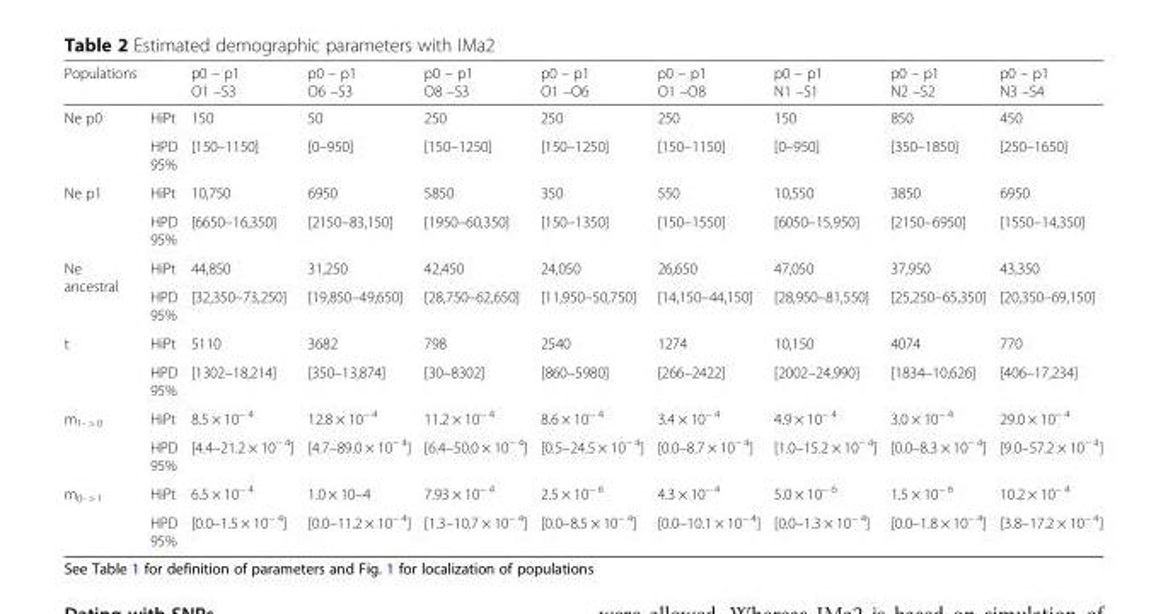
<table><thead><tr><td>Populations</td><td></td><td>p0 – p1 O1 –S3</td><td>p0 – p1 O6 –S3</td><td>p0 – p1 O8 –S3</td><td>p0 – p1 O1 –O6</td><td>p0 – p1 O1 –O8</td><td>p0 – p1 N1 –S1</td><td>p0 – p1 N2 –S2</td><td>p0 – p1 N3 –S4</td></tr></thead><tbody><tr><td rowspan="2">Ne p0</td><td>HiPt</td><td>150</td><td>50</td><td>250</td><td>250</td><td>250</td><td>150</td><td>850</td><td>450</td></tr><tr><td>HPD 95%</td><td>[150–1150]</td><td>[0–950]</td><td>[150–1250]</td><td>[150–1250]</td><td>[150–1150]</td><td>[0–950]</td><td>[350–1850]</td><td>[250–1650]</td></tr><tr><td rowspan="2">Ne p1</td><td>HiPt</td><td>10,750</td><td>6950</td><td>5850</td><td>350</td><td>550</td><td>10,550</td><td>3850</td><td>6950</td></tr><tr><td>HPD 95%</td><td>[6650–16,350]</td><td>[2150–83,150]</td><td>[1950–60,350]</td><td>[150–1350]</td><td>[150–1550]</td><td>[6050–15,950]</td><td>[2150–6950]</td><td>[1550–14,350]</td></tr><tr><td rowspan="2">Ne ancestral</td><td>HiPt</td><td>44,850</td><td>31,250</td><td>42,450</td><td>24,050</td><td>26,650</td><td>47,050</td><td>37,950</td><td>43,350</td></tr><tr><td>HPD 95%</td><td>[32,350–73,250]</td><td>[19,850–49,650]</td><td>[28,750–62,650]</td><td>[11,950–50,750]</td><td>[14,150–44,150]</td><td>[28,950–81,550]</td><td>[25,250–65,350]</td><td>[20,350–69,150]</td></tr><tr><td rowspan="2">t</td><td>HiPt</td><td>5110</td><td>3682</td><td>798</td><td>2540</td><td>1274</td><td>10,150</td><td>4074</td><td>770</td></tr><tr><td>HPD 95%</td><td>[1302–18,214]</td><td>[350–13,874]</td><td>[30–8302]</td><td>[860–5980]</td><td>[266–2422]</td><td>[2002–24,990]</td><td>[1834–10,626]</td><td>[406–17,234]</td></tr><tr><td rowspan="2">m<sub>1- &gt; 0</sub></td><td>HiPt</td><td>8.5 × 10<sup>− 4</sup></td><td>12.8 × 10<sup>− 4</sup></td><td>11.2 × 10<sup>− 4</sup></td><td>8.6 × 10<sup>− 4</sup></td><td>3.4 × 10<sup>− 4</sup></td><td>4.9 × 10<sup>− 4</sup></td><td>3.0 × 10<sup>− 4</sup></td><td>29.0 × 10<sup>− 4</sup></td></tr><tr><td>HPD 95%</td><td>[4.4–21.2 × 10<sup>− 4</sup>]</td><td>[4.7–89.0 × 10<sup>− 4</sup>]</td><td>[6.4–50.0 × 10<sup>− 4</sup>]</td><td>[0.5–24.5 × 10<sup>− 4</sup>]</td><td>[0.0–8.7 × 10<sup>− 4</sup>]</td><td>[1.0–15.2 × 10<sup>− 4</sup>]</td><td>[0.0–8.3 × 10<sup>− 4</sup>]</td><td>[9.0–57.2 × 10<sup>− 4</sup>]</td></tr><tr><td rowspan="2">m<sub>0- &gt; 1</sub></td><td>HiPt</td><td>6.5 × 10<sup>− 4</sup></td><td>1.0 × 10–4</td><td>7.93 × 10<sup>− 4</sup></td><td>2.5 × 10<sup>− 6</sup></td><td>4.3 × 10<sup>− 4</sup></td><td>5.0 × 10<sup>− 6</sup></td><td>1.5 × 10<sup>− 6</sup></td><td>10.2 × 10<sup>− 4</sup></td></tr><tr><td>HPD 95%</td><td>[0.0–1.5 × 10<sup>− 4</sup>]</td><td>[0.0–11.2 × 10<sup>− 4</sup>]</td><td>[1.3–10.7 × 10<sup>− 4</sup>]</td><td>[0.0–8.5 × 10<sup>− 4</sup>]</td><td>[0.0–10.1 × 10<sup>− 4</sup>]</td><td>[0.0–1.3 × 10<sup>− 4</sup>]</td><td>[0.0–1.8 × 10<sup>− 4</sup>]</td><td>[3.8–17.2 × 10<sup>− 4</sup>]</td></tr></tbody></table>